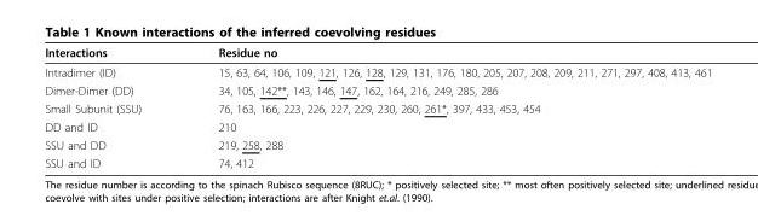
<table><thead><tr><td>Interactions</td><td>Residue no</td></tr></thead><tbody><tr><td>Intradimer (ID)</td><td>15, 63, 64, 106, 109, 121, 126, 128, 129, 131, 176, 180, 205, 207, 208, 209, 211, 271, 297, 408, 413, 461</td></tr><tr><td>Dimer-Dimer (DD)</td><td>34, 105, 142**, 143, 146, 147, 162, 164, 216, 249, 285, 286</td></tr><tr><td>Small Subunit (SSU)</td><td>76, 163, 166, 223, 226, 227, 229, 230, 260, 261*, 397, 433, 453, 454</td></tr><tr><td>DD and ID</td><td>210</td></tr><tr><td>SSU and DD</td><td>219, 258, 288</td></tr><tr><td>SSU and ID</td><td>74, 412</td></tr></tbody></table>